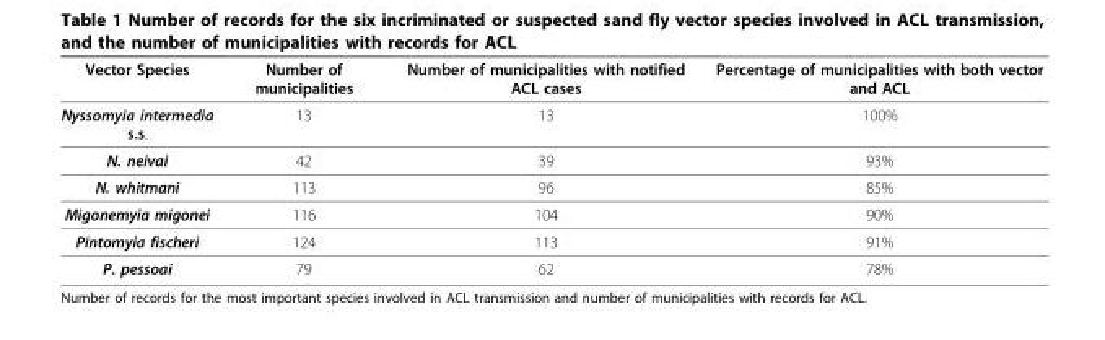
<table><thead><tr><td>Vector Species</td><td>Number of municipalities</td><td>Number of municipalities with notified ACL cases</td><td>Percentage of municipalities with both vector and ACL</td></tr></thead><tbody><tr><td>Nyssomyia intermedia s.s.</td><td>13</td><td>13</td><td>100%</td></tr><tr><td>N. neivai</td><td>42</td><td>39</td><td>93%</td></tr><tr><td>N. whitmani</td><td>113</td><td>96</td><td>85%</td></tr><tr><td>Migonemyia migonei</td><td>116</td><td>104</td><td>90%</td></tr><tr><td>Pintomyia fischeri</td><td>124</td><td>113</td><td>91%</td></tr><tr><td>P. pessoai</td><td>79</td><td>62</td><td>78%</td></tr></tbody></table>